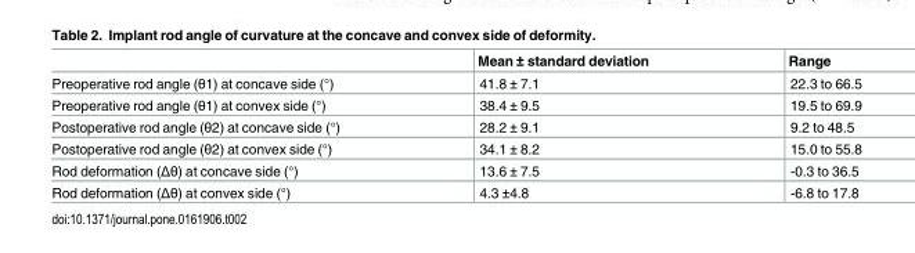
<table><thead><tr><td></td><td>Mean ± standard deviation</td><td>Range</td></tr></thead><tbody><tr><td>Preoperative rod angle (θ1) at concave side (°)</td><td>41.8 ± 7.1</td><td>22.3 to 66.5</td></tr><tr><td>Preoperative rod angle (θ1) at convex side (°)</td><td>38.4 ± 9.5</td><td>19.5 to 69.9</td></tr><tr><td>Postoperative rod angle (θ2) at concave side (°)</td><td>28.2 ± 9.1</td><td>9.2 to 48.5</td></tr><tr><td>Postoperative rod angle (θ2) at convex side (°)</td><td>34.1 ± 8.2</td><td>15.0 to 55.8</td></tr><tr><td>Rod deformation (Δθ) at concave side (°)</td><td>13.6 ± 7.5</td><td>-0.3 to 36.5</td></tr><tr><td>Rod deformation (Δθ) at convex side (°)</td><td>4.3 ±4.8</td><td>-6.8 to 17.8</td></tr></tbody></table>